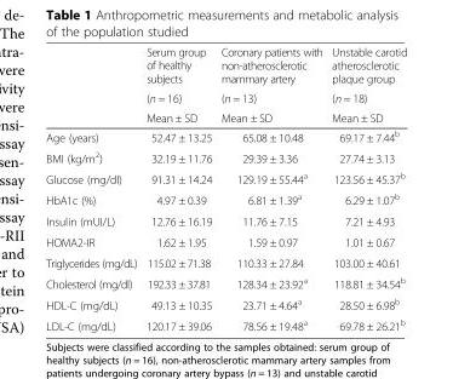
<table><thead><tr><td rowspan="3"></td><td rowspan="3">Serum group of healthy subjects (n = 16) Mean ± SD</td><td rowspan="3">Coronary patients with non-atherosclerotic mammary artery (n = 13) Mean ± SD</td><td rowspan="3">Unstable carotid atherosclerotic plaque group (n = 18) Mean ± SD</td></tr><tr></tr><tr></tr></thead><tbody><tr><td>Age (years)</td><td>52.47 ± 13.25</td><td>65.08 ± 10.48</td><td>69.17 ± 7.44<sup>b</sup></td></tr><tr><td>BMI (kg/m<sup>2</sup>)</td><td>32.19 ± 11.76</td><td>29.39 ± 3.36</td><td>27.74 ± 3.13</td></tr><tr><td>Glucose (mg/dl)</td><td>91.31 ± 14.24</td><td>129.19 ± 55.44<sup>a</sup></td><td>123.56 ± 45.37<sup>b</sup></td></tr><tr><td>HbA1c (%)</td><td>4.97 ± 0.39</td><td>6.81 ± 1.39<sup>a</sup></td><td>6.29 ± 1.07<sup>b</sup></td></tr><tr><td>Insulin (mUI/L)</td><td>12.76 ± 16.19</td><td>11.76 ± 7.15</td><td>7.21 ± 4.93</td></tr><tr><td>HOMA2-IR</td><td>1.62 ± 1.95</td><td>1.59 ± 0.97</td><td>1.01 ± 0.67</td></tr><tr><td>Triglycerides (mg/dL)</td><td>115.02 ± 71.38</td><td>110.33 ± 27.84</td><td>103.00 ± 40.61</td></tr><tr><td>Cholesterol (mg/dl)</td><td>192.33 ± 37.81</td><td>128.34 ± 23.92<sup>a</sup></td><td>118.81 ± 34.54<sup>b</sup></td></tr><tr><td>HDL-C (mg/dL)</td><td>49.13 ± 10.35</td><td>23.71 ± 4.64<sup>a</sup></td><td>28.50 ± 6.98<sup>b</sup></td></tr><tr><td>LDL-C (mg/dL)</td><td>120.17 ± 39.06</td><td>78.56 ± 19.48<sup>a</sup></td><td>69.78 ± 26.21<sup>b</sup></td></tr></tbody></table>